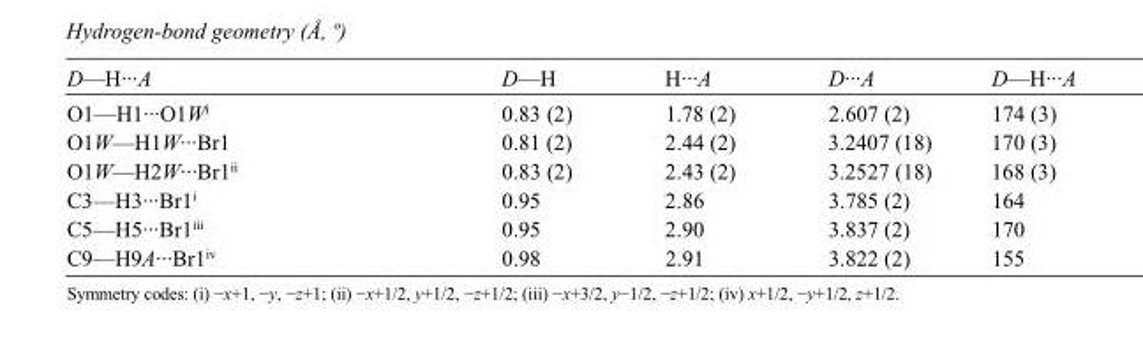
<table><tbody><tr><td>D—H···A</td><td>D—H</td><td>H···A</td><td>D···A</td><td>D—H···A</td></tr><tr><td>O1—H1···O1W<sup>i</sup></td><td>0.83 (2)</td><td>1.78 (2)</td><td>2.607 (2)</td><td>174 (3)</td></tr><tr><td>O1W—H1W···Br1</td><td>0.81 (2)</td><td>2.44 (2)</td><td>3.2407 (18)</td><td>170 (3)</td></tr><tr><td>O1W—H2W···Br1<sup>ii</sup></td><td>0.83 (2)</td><td>2.43 (2)</td><td>3.2527 (18)</td><td>168 (3)</td></tr><tr><td>C3—H3···Br1<sup>i</sup></td><td>0.95</td><td>2.86</td><td>3.785 (2)</td><td>164</td></tr><tr><td>C5—H5···Br1<sup>iii</sup></td><td>0.95</td><td>2.90</td><td>3.837 (2)</td><td>170</td></tr><tr><td>C9—H9A···Br1<sup>iv</sup></td><td>0.98</td><td>2.91</td><td>3.822 (2)</td><td>155</td></tr></tbody></table>